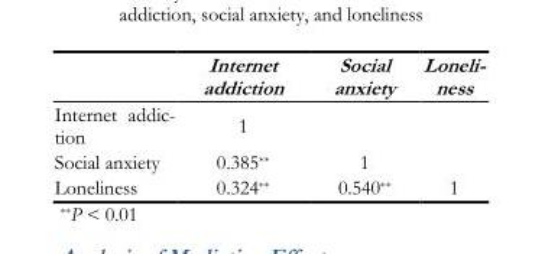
<table><thead><tr><td></td><td>Internet addiction</td><td>Social anxiety</td><td>Loneli- ness</td></tr></thead><tbody><tr><td>Internet addic- tion</td><td>1</td><td></td><td></td></tr><tr><td>Social anxiety</td><td>0.385**</td><td>1</td><td></td></tr><tr><td>Loneliness</td><td>0.324**</td><td>0.540**</td><td>1</td></tr></tbody></table>